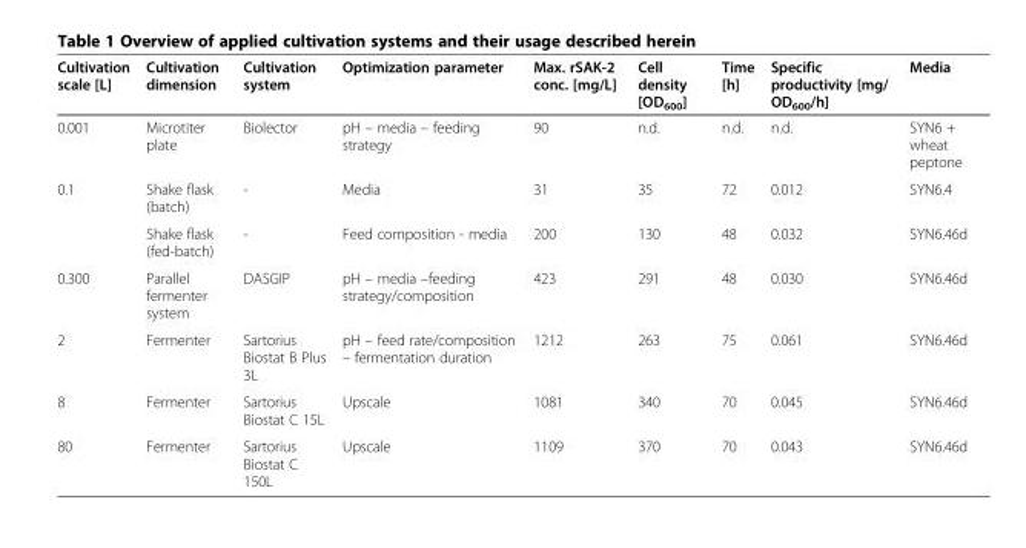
<table><thead><tr><td>Cultivation scale [L]</td><td>Cultivation dimension</td><td>Cultivation system</td><td>Optimization parameter</td><td>Max. rSAK-2 conc. [mg/L]</td><td>Cell density [OD<sub>600</sub>]</td><td>Time [h]</td><td>Specific productivity [mg/ OD<sub>600</sub>/h]</td><td>Media</td></tr></thead><tbody><tr><td>0.001</td><td>Microtiter plate</td><td>Biolector</td><td>pH – media – feeding strategy</td><td>90</td><td>n.d.</td><td>n.d.</td><td>n.d.</td><td>SYN6 + wheat peptone</td></tr><tr><td rowspan="2">0.1</td><td>Shake flask (batch)</td><td>-</td><td>Media</td><td>31</td><td>35</td><td>72</td><td>0.012</td><td>SYN6.4</td></tr><tr><td>Shake flask (fed-batch)</td><td>-</td><td>Feed composition - media</td><td>200</td><td>130</td><td>48</td><td>0.032</td><td>SYN6.46d</td></tr><tr><td>0.300</td><td>Parallel fermenter system</td><td>DASGIP</td><td>pH – media –feeding strategy/composition</td><td>423</td><td>291</td><td>48</td><td>0.030</td><td>SYN6.46d</td></tr><tr><td>2</td><td>Fermenter</td><td>Sartorius Biostat B Plus 3L</td><td>pH – feed rate/composition – fermentation duration</td><td>1212</td><td>263</td><td>75</td><td>0.061</td><td>SYN6.46d</td></tr><tr><td>8</td><td>Fermenter</td><td>Sartorius Biostat C 15L</td><td>Upscale</td><td>1081</td><td>340</td><td>70</td><td>0.045</td><td>SYN6.46d</td></tr><tr><td>80</td><td>Fermenter</td><td>Sartorius Biostat C 150L</td><td>Upscale</td><td>1109</td><td>370</td><td>70</td><td>0.043</td><td>SYN6.46d</td></tr></tbody></table>